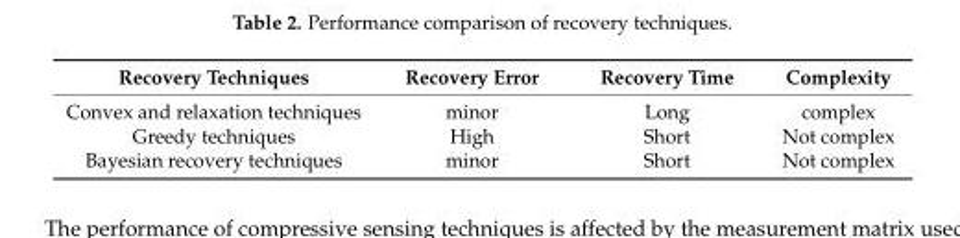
<table><thead><tr><td>Recovery Techniques</td><td>Recovery Error</td><td>Recovery Time</td><td>Complexity</td></tr></thead><tbody><tr><td>Convex and relaxation techniques</td><td>minor</td><td>Long</td><td>complex</td></tr><tr><td>Greedy techniques</td><td>High</td><td>Short</td><td>Not complex</td></tr><tr><td>Bayesian recovery techniques</td><td>minor</td><td>Short</td><td>Not complex</td></tr></tbody></table>